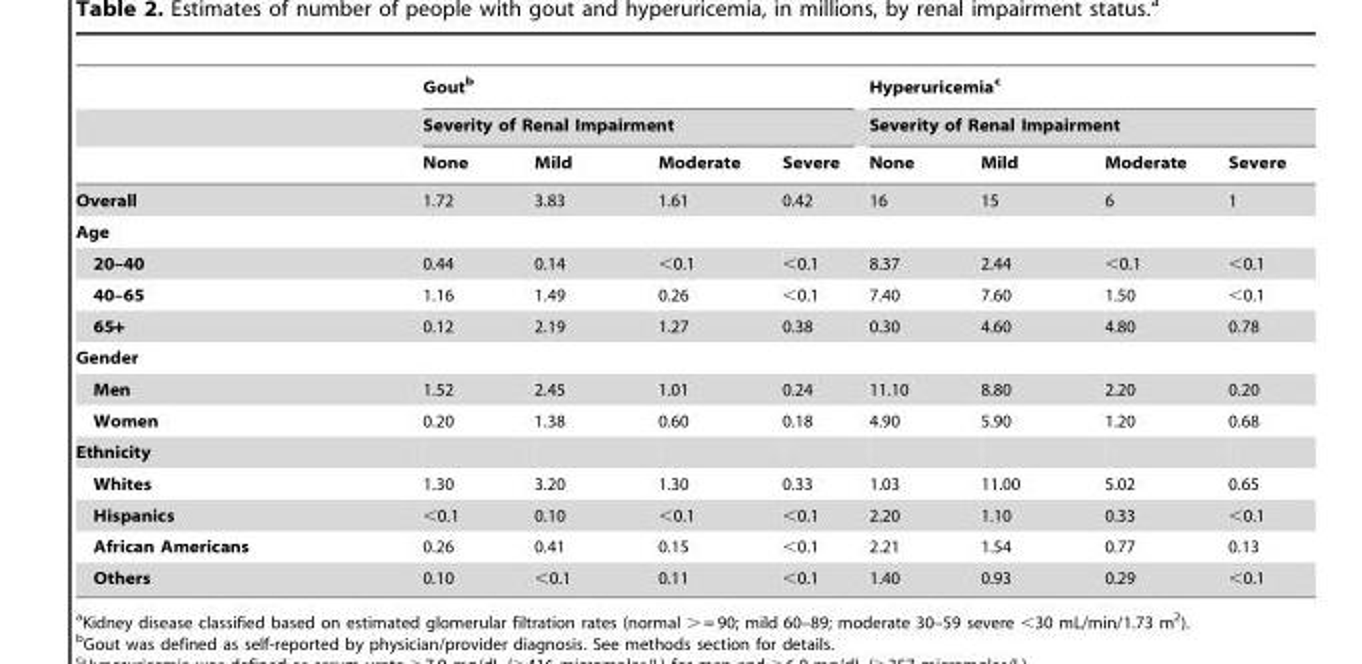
<table><thead><tr><td rowspan="3"></td><td rowspan="2" colspan="4">Gout<sup>b</sup> Severity of Renal Impairment</td><td rowspan="2" colspan="4">Hyperuricemia<sup>c</sup> Severity of Renal Impairment</td></tr><tr></tr><tr><td>None</td><td>Mild</td><td>Moderate</td><td>Severe</td><td>None</td><td>Mild</td><td>Moderate</td><td>Severe</td></tr></thead><tbody><tr><td>Overall</td><td>1.72</td><td>3.83</td><td>1.61</td><td>0.42</td><td>16</td><td>15</td><td>6</td><td>1</td></tr><tr><td colspan="9">Age</td></tr><tr><td>20–40</td><td>0.44</td><td>0.14</td><td>&lt;0.1</td><td>&lt;0.1</td><td>8.37</td><td>2.44</td><td>&lt;0.1</td><td>&lt;0.1</td></tr><tr><td>40–65</td><td>1.16</td><td>1.49</td><td>0.26</td><td>&lt;0.1</td><td>7.40</td><td>7.60</td><td>1.50</td><td>&lt;0.1</td></tr><tr><td>65+</td><td>0.12</td><td>2.19</td><td>1.27</td><td>0.38</td><td>0.30</td><td>4.60</td><td>4.80</td><td>0.78</td></tr><tr><td colspan="9">Gender</td></tr><tr><td>Men</td><td>1.52</td><td>2.45</td><td>1.01</td><td>0.24</td><td>11.10</td><td>8.80</td><td>2.20</td><td>0.20</td></tr><tr><td>Women</td><td>0.20</td><td>1.38</td><td>0.60</td><td>0.18</td><td>4.90</td><td>5.90</td><td>1.20</td><td>0.68</td></tr><tr><td colspan="9">Ethnicity</td></tr><tr><td>Whites</td><td>1.30</td><td>3.20</td><td>1.30</td><td>0.33</td><td>1.03</td><td>11.00</td><td>5.02</td><td>0.65</td></tr><tr><td>Hispanics</td><td>&lt;0.1</td><td>0.10</td><td>&lt;0.1</td><td>&lt;0.1</td><td>2.20</td><td>1.10</td><td>0.33</td><td>&lt;0.1</td></tr><tr><td>African Americans</td><td>0.26</td><td>0.41</td><td>0.15</td><td>&lt;0.1</td><td>2.21</td><td>1.54</td><td>0.77</td><td>0.13</td></tr><tr><td>Others</td><td>0.10</td><td>&lt;0.1</td><td>0.11</td><td>&lt;0.1</td><td>1.40</td><td>0.93</td><td>0.29</td><td>&lt;0.1</td></tr></tbody></table>